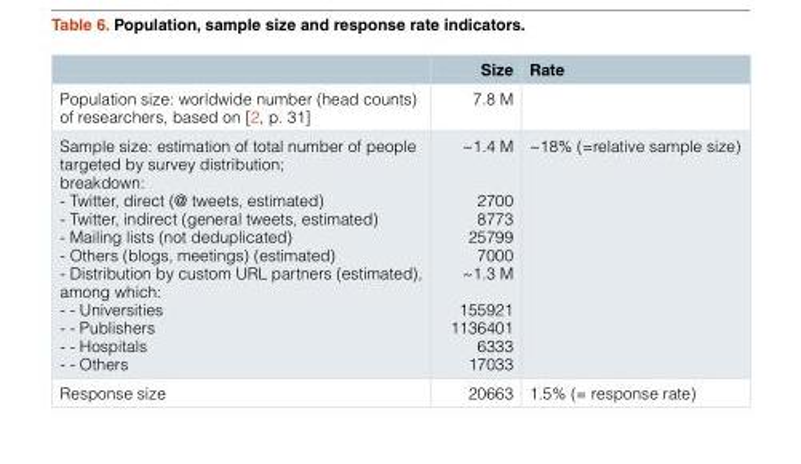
<table><thead><tr><td></td><td>Size</td><td>Rate</td></tr></thead><tbody><tr><td>Population size: worldwide number (head counts) of researchers, based on [2, p. 31]</td><td>7.8 M</td><td></td></tr><tr><td>Sample size: estimation of total number of people targeted by survey distribution; breakdown: - Twitter, direct (@ tweets, estimated) - Twitter, indirect (general tweets, estimated) - Mailing lists (not deduplicated) - Others (blogs, meetings) (estimated) - Distribution by custom URL partners (estimated), among which: - - Universities - - Publishers - - Hospitals - - Others</td><td>~1.4 M 2700 8773 25799 7000 ~1.3 M 155921 1136401 6333 17033</td><td>~18% (=relative sample size)</td></tr><tr><td>Response size</td><td>20663</td><td>1.5% (= response rate)</td></tr></tbody></table>